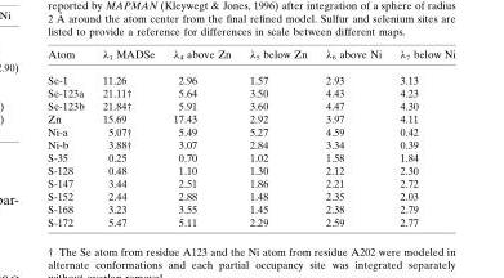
<table><thead><tr><td>Atom</td><td>λ<sub>1</sub> MADSe</td><td>λ<sub>4</sub> above Zn</td><td>λ<sub>5</sub> below Zn</td><td>λ<sub>6</sub> above Ni</td><td>λ<sub>7</sub> below Ni</td></tr></thead><tbody><tr><td>Se-1</td><td>11.26</td><td>2.96</td><td>1.57</td><td>2.93</td><td>3.13</td></tr><tr><td>Se-123a</td><td>21.11†</td><td>5.64</td><td>3.50</td><td>4.43</td><td>4.23</td></tr><tr><td>Se-123b</td><td>21.84†</td><td>5.91</td><td>3.60</td><td>4.47</td><td>4.30</td></tr><tr><td>Zn</td><td>15.69</td><td>17.43</td><td>2.92</td><td>3.97</td><td>4.11</td></tr><tr><td>Ni-a</td><td>5.07†</td><td>5.49</td><td>5.27</td><td>4.59</td><td>0.42</td></tr><tr><td>Ni-b</td><td>3.88†</td><td>3.07</td><td>2.84</td><td>3.34</td><td>0.39</td></tr><tr><td>S-35</td><td>0.25</td><td>0.70</td><td>1.02</td><td>1.58</td><td>1.84</td></tr><tr><td>S-128</td><td>0.48</td><td>1.10</td><td>1.30</td><td>2.12</td><td>2.30</td></tr><tr><td>S-147</td><td>3.44</td><td>2.51</td><td>1.86</td><td>2.21</td><td>2.72</td></tr><tr><td>S-152</td><td>2.44</td><td>2.88</td><td>1.48</td><td>2.35</td><td>2.03</td></tr><tr><td>S-168</td><td>3.23</td><td>3.55</td><td>1.45</td><td>2.38</td><td>2.79</td></tr><tr><td>S-172</td><td>5.47</td><td>5.11</td><td>2.29</td><td>2.59</td><td>2.77</td></tr></tbody></table>